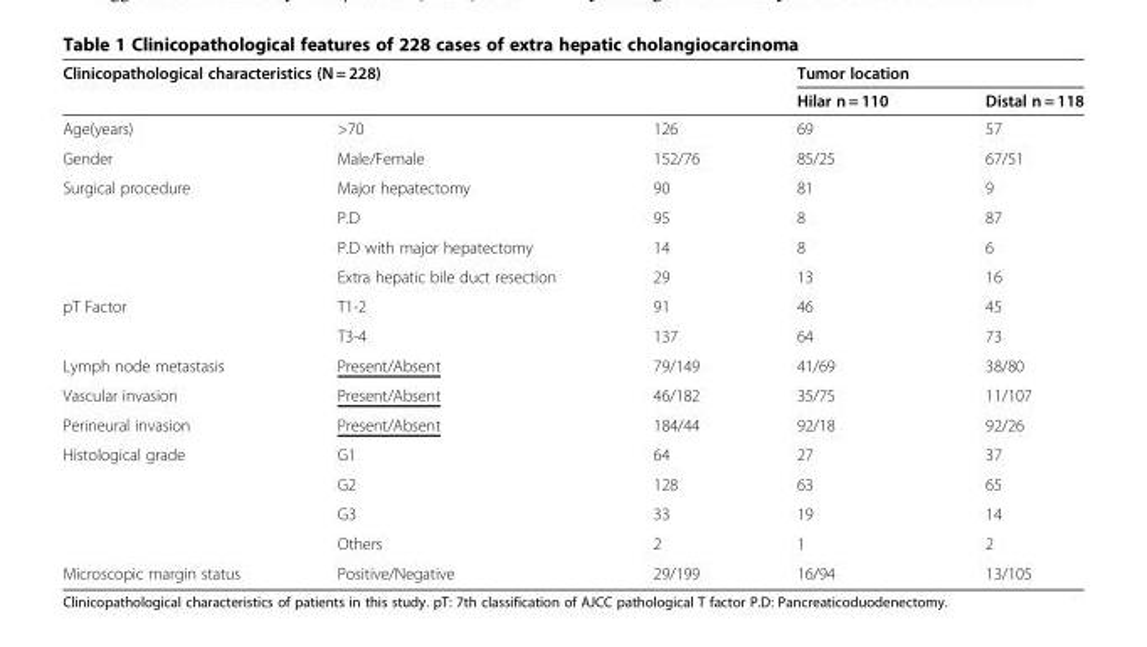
<table><thead><tr><td rowspan="2" colspan="3">Clinicopathological characteristics (N = 228)</td><td colspan="2">Tumor location</td></tr><tr><td rowspan="2">Hilar n = 110 69</td><td rowspan="2">Distal n = 118 57</td></tr><tr><td>Age(years)</td><td>&gt;70</td><td>126</td></tr></thead><tbody><tr><td>Gender</td><td>Male/Female</td><td>152/76</td><td>85/25</td><td>67/51</td></tr><tr><td rowspan="4">Surgical procedure</td><td>Major hepatectomy</td><td>90</td><td>81</td><td>9</td></tr><tr><td>P.D</td><td>95</td><td>8</td><td>87</td></tr><tr><td>P.D with major hepatectomy</td><td>14</td><td>8</td><td>6</td></tr><tr><td>Extra hepatic bile duct resection</td><td>29</td><td>13</td><td>16</td></tr><tr><td rowspan="2">pT Factor</td><td>T1-2</td><td>91</td><td>46</td><td>45</td></tr><tr><td>T3-4</td><td>137</td><td>64</td><td>73</td></tr><tr><td>Lymph node metastasis</td><td>Present/Absent</td><td>79/149</td><td>41/69</td><td>38/80</td></tr><tr><td>Vascular invasion</td><td>Present/Absent</td><td>46/182</td><td>35/75</td><td>11/107</td></tr><tr><td>Perineural invasion</td><td>Present/Absent</td><td>184/44</td><td>92/18</td><td>92/26</td></tr><tr><td rowspan="4">Histological grade</td><td>G1</td><td>64</td><td>27</td><td>37</td></tr><tr><td>G2</td><td>128</td><td>63</td><td>65</td></tr><tr><td>G3</td><td>33</td><td>19</td><td>14</td></tr><tr><td>Others</td><td>2</td><td>1</td><td>2</td></tr><tr><td>Microscopic margin status</td><td>Positive/Negative</td><td>29/199</td><td>16/94</td><td>13/105</td></tr></tbody></table>